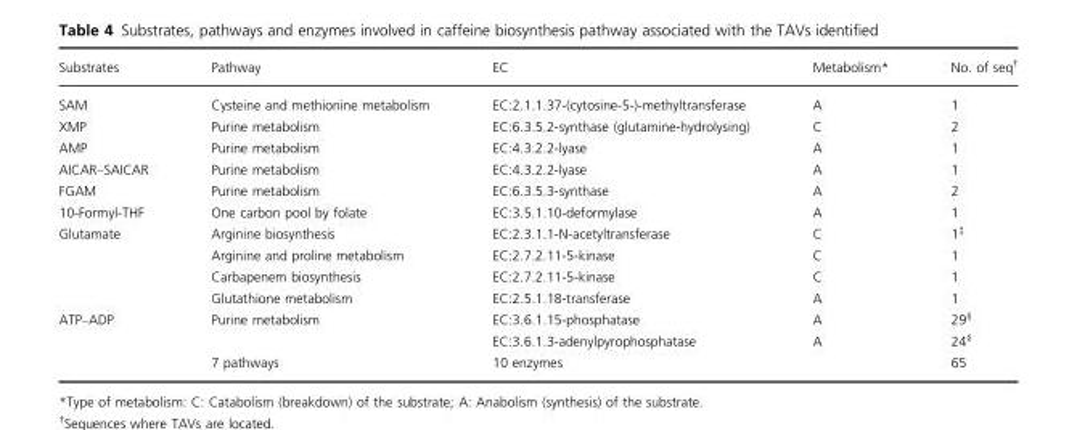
<table><thead><tr><td>Substrates</td><td>Pathway</td><td>EC</td><td>Metabolism*</td><td>No. of seq†</td></tr></thead><tbody><tr><td>SAM</td><td>Cysteine and methionine metabolism</td><td>EC:2.1.1.37-(cytosine-5-)-methyltransferase</td><td>A</td><td>1</td></tr><tr><td>XMP</td><td>Purine metabolism</td><td>EC:6.3.5.2-synthase (glutamine-hydrolysing)</td><td>C</td><td>2</td></tr><tr><td>AMP</td><td>Purine metabolism</td><td>EC:4.3.2.2-lyase</td><td>A</td><td>1</td></tr><tr><td>AICAR–SAICAR</td><td>Purine metabolism</td><td>EC:4.3.2.2-lyase</td><td>A</td><td>1</td></tr><tr><td>FGAM</td><td>Purine metabolism</td><td>EC:6.3.5.3-synthase</td><td>A</td><td>2</td></tr><tr><td>10-Formyl-THF</td><td>One carbon pool by folate</td><td>EC:3.5.1.10-deformylase</td><td>A</td><td>1</td></tr><tr><td rowspan="4">Glutamate</td><td>Arginine biosynthesis</td><td>EC:2.3.1.1-N-acetyltransferase</td><td>C</td><td>1‡</td></tr><tr><td>Arginine and proline metabolism</td><td>EC:2.7.2.11-5-kinase</td><td>C</td><td>1</td></tr><tr><td>Carbapenem biosynthesis</td><td>EC:2.7.2.11-5-kinase</td><td>C</td><td>1</td></tr><tr><td>Glutathione metabolism</td><td>EC:2.5.1.18-transferase</td><td>A</td><td>1</td></tr><tr><td rowspan="3">ATP–ADP</td><td>Purine metabolism</td><td>EC:3.6.1.15-phosphatase</td><td>A</td><td>29§</td></tr><tr><td></td><td>EC:3.6.1.3-adenylpyrophosphatase</td><td>A</td><td>24§</td></tr><tr><td>7 pathways</td><td>10 enzymes</td><td></td><td>65</td></tr></tbody></table>